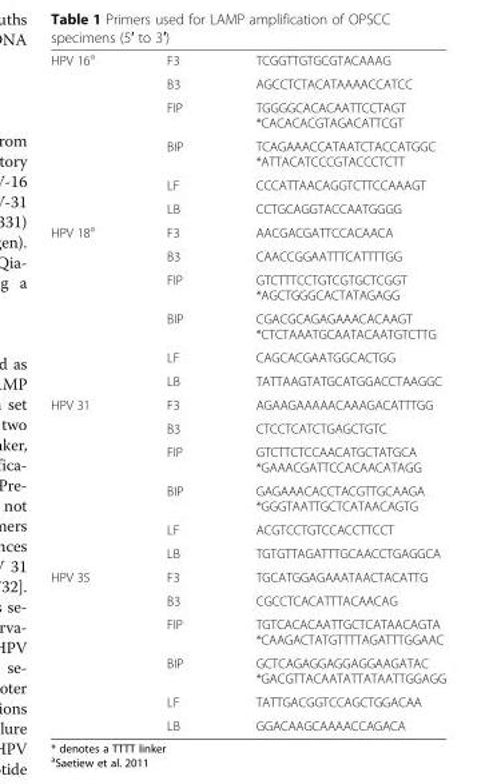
<table><tbody><tr><td rowspan="6">HPV 16<sup>a</sup></td><td>F3</td><td>TCGGTTGTGCGTACAAAG</td></tr><tr><td>B3</td><td>AGCCTCTACATAAAACCATCC</td></tr><tr><td>FIP</td><td>TGGGGCACACAATTCCTAGT *CACACACGTAGACATTCGT</td></tr><tr><td>BIP</td><td>TCAGAAACCATAATCTACCATGGC *ATTACATCCCGTACCCTCTT</td></tr><tr><td>LF</td><td>CCCATTAACAGGTCTTCCAAAGT</td></tr><tr><td>LB</td><td>CCTGCAGGTACCAATGGGG</td></tr><tr><td rowspan="6">HPV 18<sup>a</sup></td><td>F3</td><td>AACGACGATTCCACAACA</td></tr><tr><td>B3</td><td>CAACCGGAATTTCATTTTGG</td></tr><tr><td>FIP</td><td>GTCTTTCCTGTCGTGCTCGGT *AGCTGGGCACTATAGAGG</td></tr><tr><td>BIP</td><td>CGACGCAGAGAAACACAAGT *CTCTAAATGCAATACAATGTCTTG</td></tr><tr><td>LF</td><td>CAGCACGAATGGCACTGG</td></tr><tr><td>LB</td><td>TATTAAGTATGCATGGACCTAAGGC</td></tr><tr><td rowspan="6">HPV 31</td><td>F3</td><td>AGAAGAAAAACAAAGACATTTGG</td></tr><tr><td>B3</td><td>CTCCTCATCTGAGCTGTC</td></tr><tr><td>FIP</td><td>GTCTTCTCCAACATGCTATGCA *GAAACGATTCCACAACATAGG</td></tr><tr><td>BIP</td><td>GAGAAACACCTACGTTGCAAGA *GGGTAATTGCTCATAACAGTG</td></tr><tr><td>LF</td><td>ACGTCCTGTCCACCTTCCT</td></tr><tr><td>LB</td><td>TGTGTTAGATTTGCAACCTGAGGCA</td></tr><tr><td rowspan="6">HPV 35</td><td>F3</td><td>TGCATGGAGAAATAACTACATTG</td></tr><tr><td>B3</td><td>CGCCTCACATTTACAACAG</td></tr><tr><td>FIP</td><td>TGTCACACAATTGCTCATAACAGTA *CAAGACTATGTTTTAGATTTGGAAC</td></tr><tr><td>BIP</td><td>GCTCAGAGGAGGAGGAAGATAC *GACGTTACAATATTATAATTGGAGG</td></tr><tr><td>LF</td><td>TATTGACGGTCCAGCTGGACAA</td></tr><tr><td>LB</td><td>GGACAAGCAAAACCAGACA</td></tr></tbody></table>